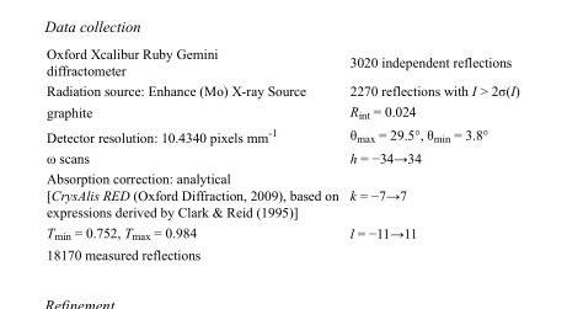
<table><tbody><tr><td>Oxford Xcalibur Ruby Gemini diffractometer</td><td>3020 independent reflections</td></tr><tr><td>Radiation source: Enhance (Mo) X-ray Source</td><td>2270 reflections with I &gt; 2σ(I)</td></tr><tr><td>graphite</td><td>R<sub>int</sub> = 0.024</td></tr><tr><td>Detector resolution: 10.4340 pixels mm<sup>-1</sup></td><td>θ<sub>max</sub> = 29.5°, θ<sub>min</sub> = 3.8°</td></tr><tr><td>ω scans</td><td>h = −34→34</td></tr><tr><td>Absorption correction: analytical [CrysAlis RED (Oxford Diffraction, 2009), based on expressions derived by Clark &amp; Reid (1995)]</td><td>k = −7→7</td></tr><tr><td>T<sub>min</sub> = 0.752, T<sub>max</sub> = 0.984</td><td>l = −11→11</td></tr><tr><td>18170 measured reflections</td><td></td></tr></tbody></table>